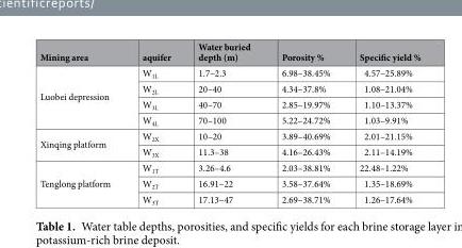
<table><thead><tr><td>Mining area</td><td>aquifer</td><td>Water buried depth (m)</td><td>Porosity %</td><td>Specific yield %</td></tr></thead><tbody><tr><td rowspan="4">Luobei depression</td><td>W<sub>1L</sub></td><td>1.7–2.3</td><td>6.98–38.45%</td><td>4.57–25.89%</td></tr><tr><td>W<sub>2L</sub></td><td>20–40</td><td>4.34–37.8%</td><td>1.08–21.04%</td></tr><tr><td>W<sub>3L</sub></td><td>40–70</td><td>2.85–19.97%</td><td>1.10–13.37%</td></tr><tr><td>W<sub>4L</sub></td><td>70–100</td><td>5.22–24.72%</td><td>1.03–9.91%</td></tr><tr><td rowspan="2">Xinqing platform</td><td>W<sub>2X</sub></td><td>10–20</td><td>3.89–40.69%</td><td>2.01–21.15%</td></tr><tr><td>W<sub>3X</sub></td><td>11.3–38</td><td>4.16–26.43%</td><td>2.11–14.19%</td></tr><tr><td rowspan="3">Tenglong platform</td><td>W<sub>1T</sub></td><td>3.26–4.6</td><td>2.03–38.81%</td><td>22.48–1.22%</td></tr><tr><td>W<sub>2T</sub></td><td>16.91–22</td><td>3.58–37.64%</td><td>1.35–18.69%</td></tr><tr><td>W<sub>3T</sub></td><td>17.13–47</td><td>2.69–38.71%</td><td>1.26–17.64%</td></tr></tbody></table>